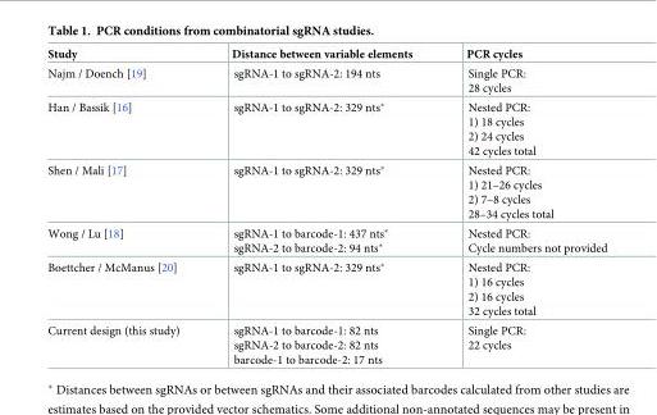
<table><thead><tr><td>Study</td><td>Distance between variable elements</td><td>PCR cycles</td></tr></thead><tbody><tr><td>Najm / Doench [19]</td><td>sgRNA-1 to sgRNA-2: 194 nts</td><td>Single PCR: 28 cycles</td></tr><tr><td>Han / Bassik [16]</td><td>sgRNA-1 to sgRNA-2: 329 nts*</td><td>Nested PCR: 1) 18 cycles 2) 24 cycles 42 cycles total</td></tr><tr><td>Shen / Mali [17]</td><td>sgRNA-1 to sgRNA-2: 329 nts*</td><td>Nested PCR: 1) 21–26 cycles 2) 7–8 cycles 28–34 cycles total</td></tr><tr><td>Wong / Lu [18]</td><td>sgRNA-1 to barcode-1: 437 nts* sgRNA-2 to barcode-2: 94 nts*</td><td>Nested PCR: Cycle numbers not provided</td></tr><tr><td>Boettcher / McManus [20]</td><td>sgRNA-1 to sgRNA-2: 329 nts*</td><td>Nested PCR: 1) 16 cycles 2) 16 cycles 32 cycles total</td></tr><tr><td>Current design (this study)</td><td>sgRNA-1 to barcode-1: 82 nts sgRNA-2 to barcode-2: 82 nts barcode-1 to barcode-2: 17 nts</td><td>Single PCR: 22 cycles</td></tr></tbody></table>